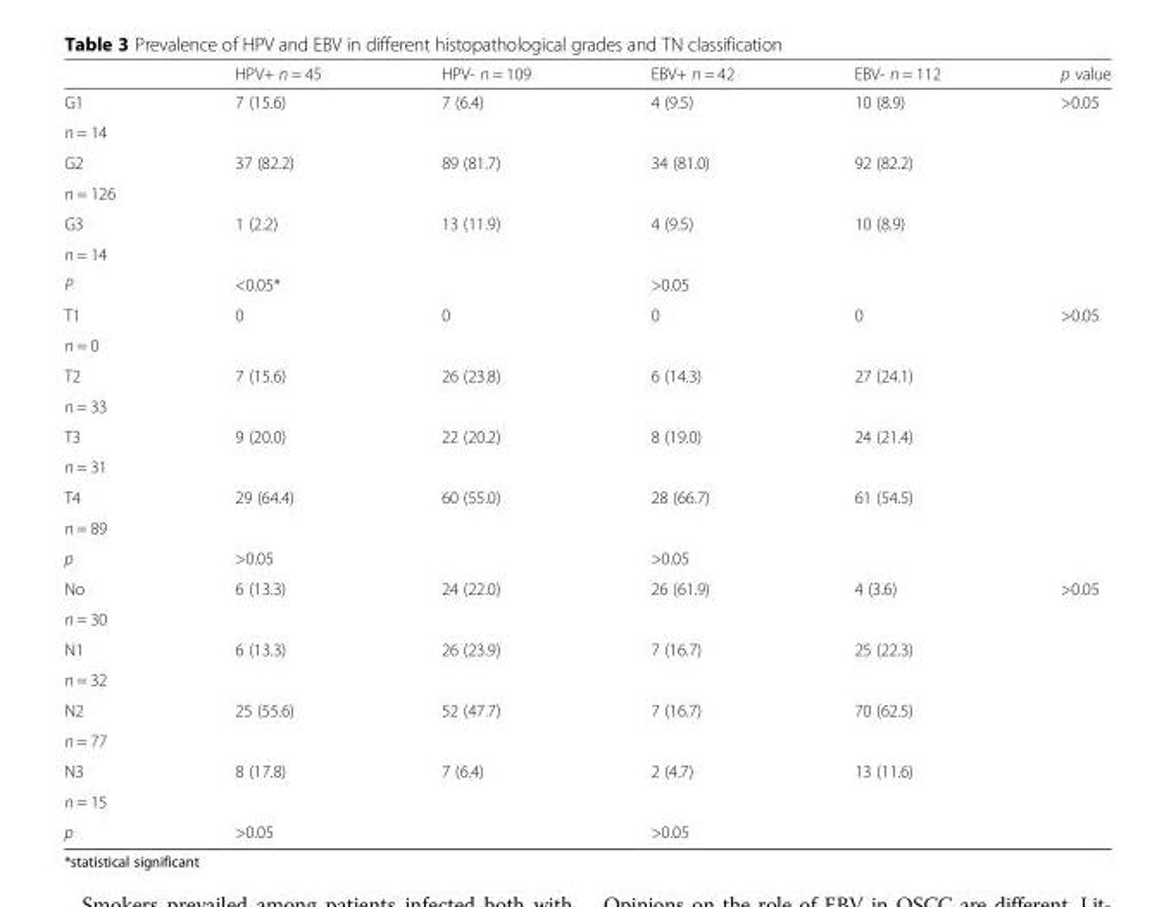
<table><thead><tr><td></td><td>HPV+ n = 45</td><td>HPV- n = 109</td><td>EBV+ n = 42</td><td>EBV- n = 112</td><td>p value</td></tr></thead><tbody><tr><td>G1</td><td rowspan="2">7 (15.6)</td><td rowspan="2">7 (6.4)</td><td rowspan="2">4 (9.5)</td><td rowspan="2">10 (8.9)</td><td rowspan="7">&gt;0.05</td></tr><tr><td>n = 14</td></tr><tr><td>G2</td><td rowspan="2">37 (82.2)</td><td rowspan="2">89 (81.7)</td><td rowspan="2">34 (81.0)</td><td rowspan="2">92 (82.2)</td></tr><tr><td>n = 126</td></tr><tr><td>G3</td><td rowspan="2">1 (2.2)</td><td rowspan="2">13 (11.9)</td><td rowspan="2">4 (9.5)</td><td rowspan="2">10 (8.9)</td></tr><tr><td>n = 14</td></tr><tr><td>P</td><td colspan="2">&lt;0.05*</td><td colspan="2">&gt;0.05</td></tr><tr><td>T1</td><td rowspan="2">0</td><td rowspan="2">0</td><td rowspan="2">0</td><td rowspan="2">0</td><td rowspan="9">&gt;0.05</td></tr><tr><td>n = 0</td></tr><tr><td>T2</td><td rowspan="2">7 (15.6)</td><td rowspan="2">26 (23.8)</td><td rowspan="2">6 (14.3)</td><td rowspan="2">27 (24.1)</td></tr><tr><td>n = 33</td></tr><tr><td>T3</td><td rowspan="2">9 (20.0)</td><td rowspan="2">22 (20.2)</td><td rowspan="2">8 (19.0)</td><td rowspan="2">24 (21.4)</td></tr><tr><td>n = 31</td></tr><tr><td>T4</td><td rowspan="2">29 (64.4)</td><td rowspan="2">60 (55.0)</td><td rowspan="2">28 (66.7)</td><td rowspan="2">61 (54.5)</td></tr><tr><td>n = 89</td></tr><tr><td>p</td><td colspan="2">&gt;0.05</td><td colspan="2">&gt;0.05</td></tr><tr><td>No</td><td rowspan="2">6 (13.3)</td><td rowspan="2">24 (22.0)</td><td rowspan="2">26 (61.9)</td><td rowspan="2">4 (3.6)</td><td rowspan="9">&gt;0.05</td></tr><tr><td>n = 30</td></tr><tr><td>N1</td><td rowspan="2">6 (13.3)</td><td rowspan="2">26 (23.9)</td><td rowspan="2">7 (16.7)</td><td rowspan="2">25 (22.3)</td></tr><tr><td>n = 32</td></tr><tr><td>N2</td><td rowspan="2">25 (55.6)</td><td rowspan="2">52 (47.7)</td><td rowspan="2">7 (16.7)</td><td rowspan="2">70 (62.5)</td></tr><tr><td>n = 77</td></tr><tr><td>N3</td><td rowspan="2">8 (17.8)</td><td rowspan="2">7 (6.4)</td><td rowspan="2">2 (4.7)</td><td rowspan="2">13 (11.6)</td></tr><tr><td>n = 15</td></tr><tr><td>p</td><td colspan="2">&gt;0.05</td><td colspan="2">&gt;0.05</td></tr></tbody></table>